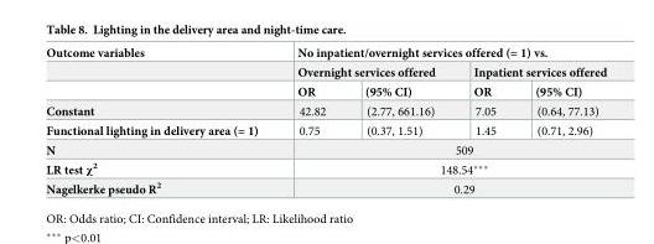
<table><thead><tr><td rowspan="3">Outcome variables</td><td colspan="4">No inpatient/overnight services offered (= 1) vs.</td></tr><tr><td colspan="2">Overnight services offered</td><td colspan="2">Inpatient services offered</td></tr><tr><td>OR</td><td>(95% CI)</td><td>OR</td><td>(95% CI)</td></tr></thead><tbody><tr><td>Constant</td><td>42.82</td><td>(2.77, 661.16)</td><td>7.05</td><td>(0.64, 77.13)</td></tr><tr><td>Functional lighting in delivery area (= 1)</td><td>0.75</td><td>(0.37, 1.51)</td><td>1.45</td><td>(0.71, 2.96)</td></tr><tr><td>N</td><td colspan="4">509</td></tr><tr><td>LR test χ<sup>2</sup></td><td colspan="4">148.54***</td></tr><tr><td>Nagelkerke pseudo R<sup>2</sup></td><td colspan="4">0.29</td></tr></tbody></table>